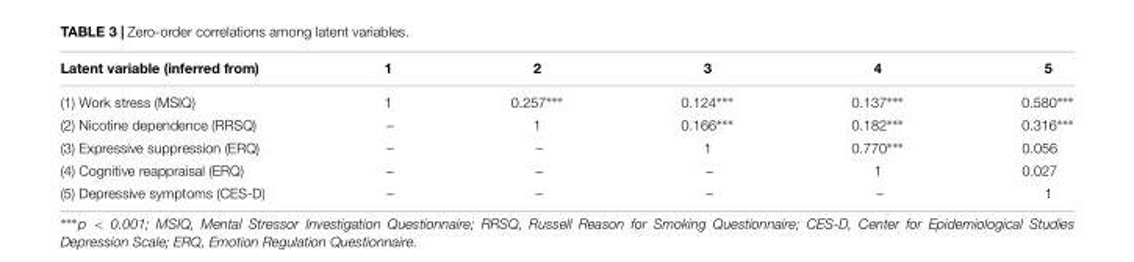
<table><thead><tr><td>Latent variable (inferred from)</td><td>1</td><td>2</td><td>3</td><td>4</td><td>5</td></tr></thead><tbody><tr><td>(1) Work stress (MSIQ)</td><td>1</td><td>0.257∗∗∗</td><td>0.124∗∗∗</td><td>0.137∗∗∗</td><td>0.580∗∗∗</td></tr><tr><td>(2) Nicotine dependence (RRSQ)</td><td>–</td><td>1</td><td>0.166∗∗∗</td><td>0.182∗∗∗</td><td>0.316∗∗∗</td></tr><tr><td>(3) Expressive suppression (ERQ)</td><td>–</td><td>–</td><td>1</td><td>0.770∗∗∗</td><td>0.056</td></tr><tr><td>(4) Cognitive reappraisal (ERQ)</td><td>–</td><td>–</td><td>–</td><td>1</td><td>0.027</td></tr><tr><td>(5) Depressive symptoms (CES-D)</td><td>–</td><td>–</td><td>–</td><td>–</td><td>1</td></tr></tbody></table>